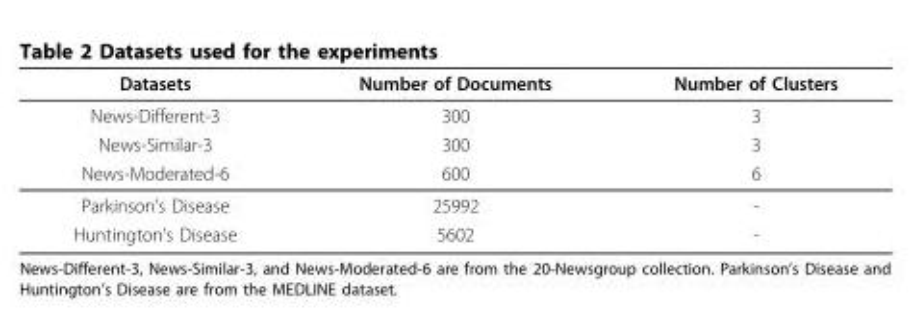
<table><thead><tr><td>Datasets</td><td>Number of Documents</td><td>Number of Clusters</td></tr></thead><tbody><tr><td>News-Different-3</td><td>300</td><td>3</td></tr><tr><td>News-Similar-3</td><td>300</td><td>3</td></tr><tr><td>News-Moderated-6</td><td>600</td><td>6</td></tr><tr><td>Parkinson’s Disease</td><td>25992</td><td>-</td></tr><tr><td>Huntington’s Disease</td><td>5602</td><td>-</td></tr></tbody></table>